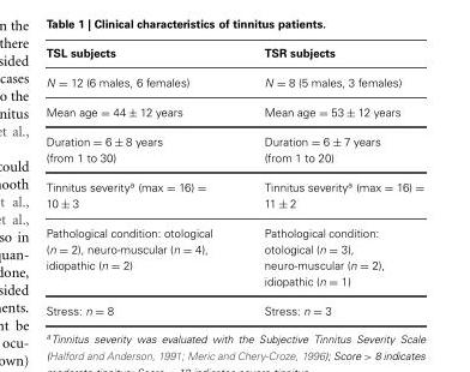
<table><thead><tr><td>TSL subjects</td><td>TSR subjects</td></tr></thead><tbody><tr><td>N = 12 (6 males, 6 females)</td><td>N = 8 (5 males, 3 females)</td></tr><tr><td>Mean age = 44 ± 12 years</td><td>Mean age = 53 ± 12 years</td></tr><tr><td>Duration = 6 ± 8 years (from 1 to 30)</td><td>Duration = 6 ± 7 years (from 1 to 20)</td></tr><tr><td>Tinnitus severity<sup>a</sup> (max = 16) = 10 ± 3</td><td>Tinnitus severity<sup>a</sup> (max = 16) = 11 ± 2</td></tr><tr><td>Pathological condition: otological (n = 2), neuro-muscular (n = 4), idiopathic (n = 2)</td><td>Pathological condition: otological (n = 3), neuro-muscular (n = 2), idiopathic (n = 1)</td></tr><tr><td>Stress: n = 8</td><td>Stress: n = 3</td></tr></tbody></table>